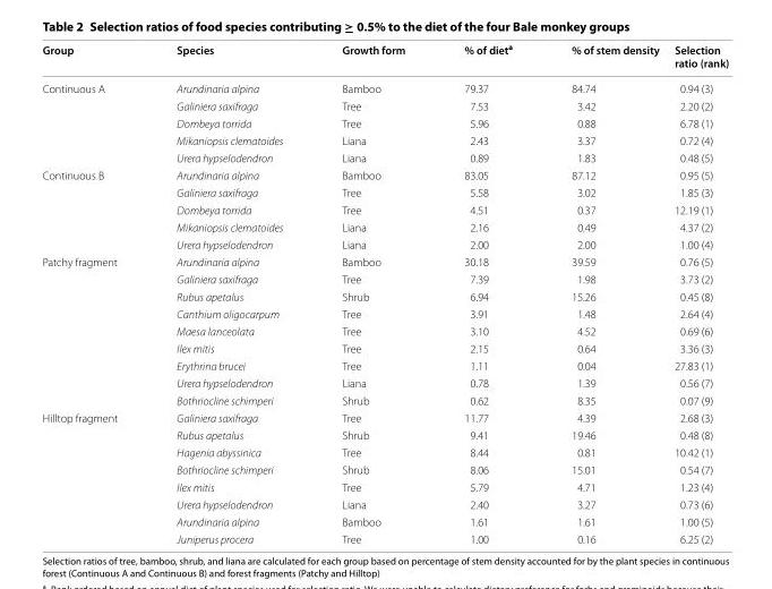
<table><thead><tr><td>Group</td><td>Species</td><td>Growth form</td><td>% of diet<sup>a</sup></td><td>% of stem density</td><td>Selection ratio (rank)</td></tr></thead><tbody><tr><td rowspan="5">Continuous A</td><td>Arundinaria alpina</td><td>Bamboo</td><td>79.37</td><td>84.74</td><td>0.94 (3)</td></tr><tr><td>Galiniera saxifraga</td><td>Tree</td><td>7.53</td><td>3.42</td><td>2.20 (2)</td></tr><tr><td>Dombeya torrida</td><td>Tree</td><td>5.96</td><td>0.88</td><td>6.78 (1)</td></tr><tr><td>Mikaniopsis clematoides</td><td>Liana</td><td>2.43</td><td>3.37</td><td>0.72 (4)</td></tr><tr><td>Urera hypselodendron</td><td>Liana</td><td>0.89</td><td>1.83</td><td>0.48 (5)</td></tr><tr><td rowspan="5">Continuous B</td><td>Arundinaria alpina</td><td>Bamboo</td><td>83.05</td><td>87.12</td><td>0.95 (5)</td></tr><tr><td>Galiniera saxifraga</td><td>Tree</td><td>5.58</td><td>3.02</td><td>1.85 (3)</td></tr><tr><td>Dombeya torrida</td><td>Tree</td><td>4.51</td><td>0.37</td><td>12.19 (1)</td></tr><tr><td>Mikaniopsis clematoides</td><td>Liana</td><td>2.16</td><td>0.49</td><td>4.37 (2)</td></tr><tr><td>Urera hypselodendron</td><td>Liana</td><td>2.00</td><td>2.00</td><td>1.00 (4)</td></tr><tr><td rowspan="9">Patchy fragment</td><td>Arundinaria alpina</td><td>Bamboo</td><td>30.18</td><td>39.59</td><td>0.76 (5)</td></tr><tr><td>Galiniera saxifraga</td><td>Tree</td><td>7.39</td><td>1.98</td><td>3.73 (2)</td></tr><tr><td>Rubus apetalus</td><td>Shrub</td><td>6.94</td><td>15.26</td><td>0.45 (8)</td></tr><tr><td>Canthium oligocarpum</td><td>Tree</td><td>3.91</td><td>1.48</td><td>2.64 (4)</td></tr><tr><td>Maesa lanceolata</td><td>Tree</td><td>3.10</td><td>4.52</td><td>0.69 (6)</td></tr><tr><td>Ilex mitis</td><td>Tree</td><td>2.15</td><td>0.64</td><td>3.36 (3)</td></tr><tr><td>Erythrina brucei</td><td>Tree</td><td>1.11</td><td>0.04</td><td>27.83 (1)</td></tr><tr><td>Urera hypselodendron</td><td>Liana</td><td>0.78</td><td>1.39</td><td>0.56 (7)</td></tr><tr><td>Bothriocline schimperi</td><td>Shrub</td><td>0.62</td><td>8.35</td><td>0.07 (9)</td></tr><tr><td rowspan="8">Hilltop fragment</td><td>Galiniera saxifraga</td><td>Tree</td><td>11.77</td><td>4.39</td><td>2.68 (3)</td></tr><tr><td>Rubus apetalus</td><td>Shrub</td><td>9.41</td><td>19.46</td><td>0.48 (8)</td></tr><tr><td>Hagenia abyssinica</td><td>Tree</td><td>8.44</td><td>0.81</td><td>10.42 (1)</td></tr><tr><td>Bothriocline schimperi</td><td>Shrub</td><td>8.06</td><td>15.01</td><td>0.54 (7)</td></tr><tr><td>Ilex mitis</td><td>Tree</td><td>5.79</td><td>4.71</td><td>1.23 (4)</td></tr><tr><td>Urera hypselodendron</td><td>Liana</td><td>2.40</td><td>3.27</td><td>0.73 (6)</td></tr><tr><td>Arundinaria alpina</td><td>Bamboo</td><td>1.61</td><td>1.61</td><td>1.00 (5)</td></tr><tr><td>Juniperus procera</td><td>Tree</td><td>1.00</td><td>0.16</td><td>6.25 (2)</td></tr></tbody></table>